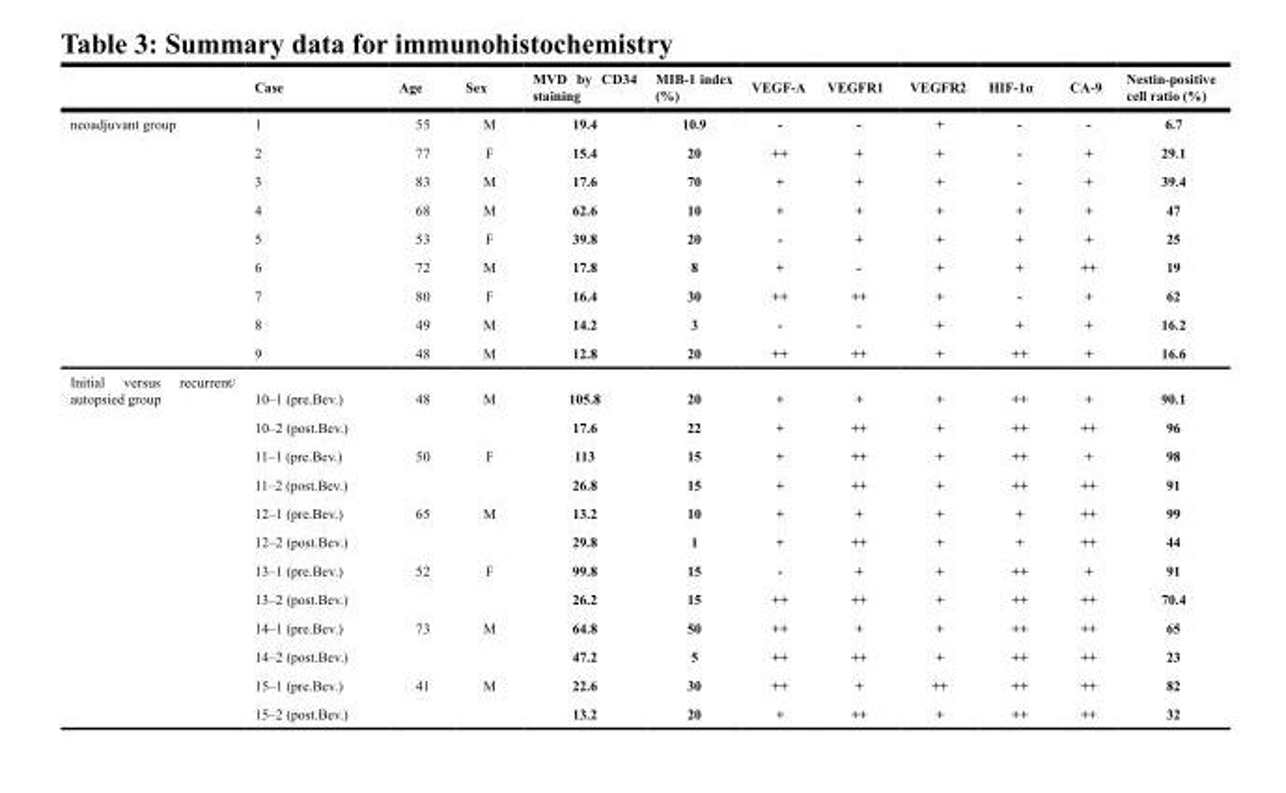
<table><thead><tr><td></td><td>Case</td><td>Age</td><td>Sex</td><td>MVD by CD34 staining</td><td>MIB-1 index (%)</td><td>VEGF-A</td><td>VEGFR1</td><td>VEGFR2</td><td>HIF-1α</td><td>CA-9</td><td>Nestin-positive cell ratio (%)</td></tr></thead><tbody><tr><td rowspan="9">neoadjuvant group</td><td>1</td><td>55</td><td>M</td><td>19.4</td><td>10.9</td><td>-</td><td>-</td><td>+</td><td>-</td><td>-</td><td>6.7</td></tr><tr><td>2</td><td>77</td><td>F</td><td>15.4</td><td>20</td><td>++</td><td>+</td><td>+</td><td>-</td><td>+</td><td>29.1</td></tr><tr><td>3</td><td>83</td><td>M</td><td>17.6</td><td>70</td><td>+</td><td>+</td><td>+</td><td>-</td><td>+</td><td>39.4</td></tr><tr><td>4</td><td>68</td><td>M</td><td>62.6</td><td>10</td><td>+</td><td>+</td><td>+</td><td>+</td><td>+</td><td>47</td></tr><tr><td>5</td><td>53</td><td>F</td><td>39.8</td><td>20</td><td>-</td><td>+</td><td>+</td><td>+</td><td>+</td><td>25</td></tr><tr><td>6</td><td>72</td><td>M</td><td>17.8</td><td>8</td><td>+</td><td>-</td><td>+</td><td>+</td><td>++</td><td>19</td></tr><tr><td>7</td><td>80</td><td>F</td><td>16.4</td><td>30</td><td>++</td><td>++</td><td>+</td><td>-</td><td>+</td><td>62</td></tr><tr><td>8</td><td>49</td><td>M</td><td>14.2</td><td>3</td><td>-</td><td>-</td><td>+</td><td>+</td><td>+</td><td>16.2</td></tr><tr><td>9</td><td>48</td><td>M</td><td>12.8</td><td>20</td><td>++</td><td>++</td><td>+</td><td>++</td><td>+</td><td>16.6</td></tr><tr><td rowspan="12">Initial versus recurrent/ autopsied group</td><td>10–1 (pre.Bev.)</td><td>48</td><td>M</td><td>105.8</td><td>20</td><td>+</td><td>+</td><td>+</td><td>++</td><td>+</td><td>90.1</td></tr><tr><td>10–2 (post.Bev.)</td><td></td><td></td><td>17.6</td><td>22</td><td>+</td><td>++</td><td>+</td><td>++</td><td>++</td><td>96</td></tr><tr><td>11–1 (pre.Bev.)</td><td>50</td><td>F</td><td>113</td><td>15</td><td>+</td><td>++</td><td>+</td><td>++</td><td>+</td><td>98</td></tr><tr><td>11–2 (post.Bev.)</td><td></td><td></td><td>26.8</td><td>15</td><td>+</td><td>++</td><td>+</td><td>++</td><td>++</td><td>91</td></tr><tr><td>12–1 (pre.Bev.)</td><td>65</td><td>M</td><td>13.2</td><td>10</td><td>+</td><td>+</td><td>+</td><td>+</td><td>++</td><td>99</td></tr><tr><td>12–2 (post.Bev.)</td><td></td><td></td><td>29.8</td><td>1</td><td>+</td><td>++</td><td>+</td><td>+</td><td>++</td><td>44</td></tr><tr><td>13–1 (pre.Bev.)</td><td>52</td><td>F</td><td>99.8</td><td>15</td><td>-</td><td>+</td><td>+</td><td>++</td><td>+</td><td>91</td></tr><tr><td>13–2 (post.Bev.)</td><td></td><td></td><td>26.2</td><td>15</td><td>++</td><td>++</td><td>+</td><td>++</td><td>++</td><td>70.4</td></tr><tr><td>14–1 (pre.Bev.)</td><td>73</td><td>M</td><td>64.8</td><td>50</td><td>++</td><td>+</td><td>+</td><td>++</td><td>++</td><td>65</td></tr><tr><td>14–2 (post.Bev.)</td><td></td><td></td><td>47.2</td><td>5</td><td>++</td><td>++</td><td>+</td><td>++</td><td>++</td><td>23</td></tr><tr><td>15–1 (pre.Bev.)</td><td>41</td><td>M</td><td>22.6</td><td>30</td><td>++</td><td>+</td><td>++</td><td>++</td><td>++</td><td>82</td></tr><tr><td>15–2 (post.Bev.)</td><td></td><td></td><td>13.2</td><td>20</td><td>+</td><td>++</td><td>+</td><td>++</td><td>++</td><td>32</td></tr></tbody></table>